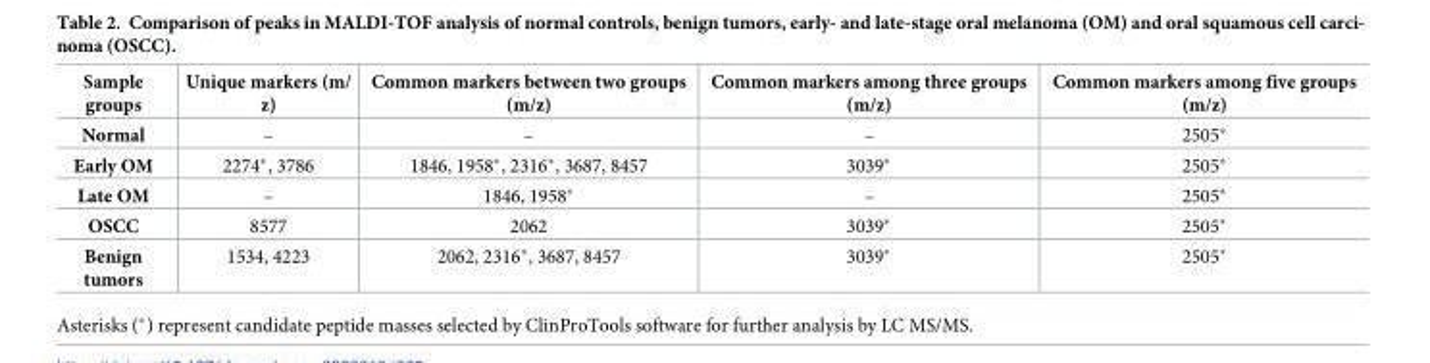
<table><thead><tr><td>Sample groups</td><td>Unique markers (m/ z)</td><td>Common markers between two groups (m/z)</td><td>Common markers among three groups (m/z)</td><td>Common markers among five groups (m/z)</td></tr></thead><tbody><tr><td>Normal</td><td>–</td><td>–</td><td>–</td><td>2505*</td></tr><tr><td>Early OM</td><td>2274*, 3786</td><td>1846, 1958*, 2316*, 3687, 8457</td><td>3039*</td><td>2505*</td></tr><tr><td>Late OM</td><td>–</td><td>1846, 1958*</td><td>–</td><td>2505*</td></tr><tr><td>OSCC</td><td>8577</td><td>2062</td><td>3039*</td><td>2505*</td></tr><tr><td>Benign tumors</td><td>1534, 4223</td><td>2062, 2316*, 3687, 8457</td><td>3039*</td><td>2505*</td></tr></tbody></table>